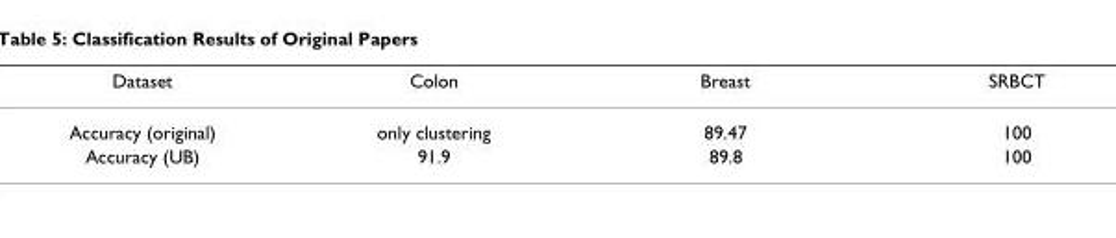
<table><thead><tr><td>Dataset</td><td>Colon</td><td>Breast</td><td>SRBCT</td></tr></thead><tbody><tr><td>Accuracy (original)</td><td>only clustering</td><td>89.47</td><td>100</td></tr><tr><td>Accuracy (UB)</td><td>91.9</td><td>89.8</td><td>100</td></tr></tbody></table>